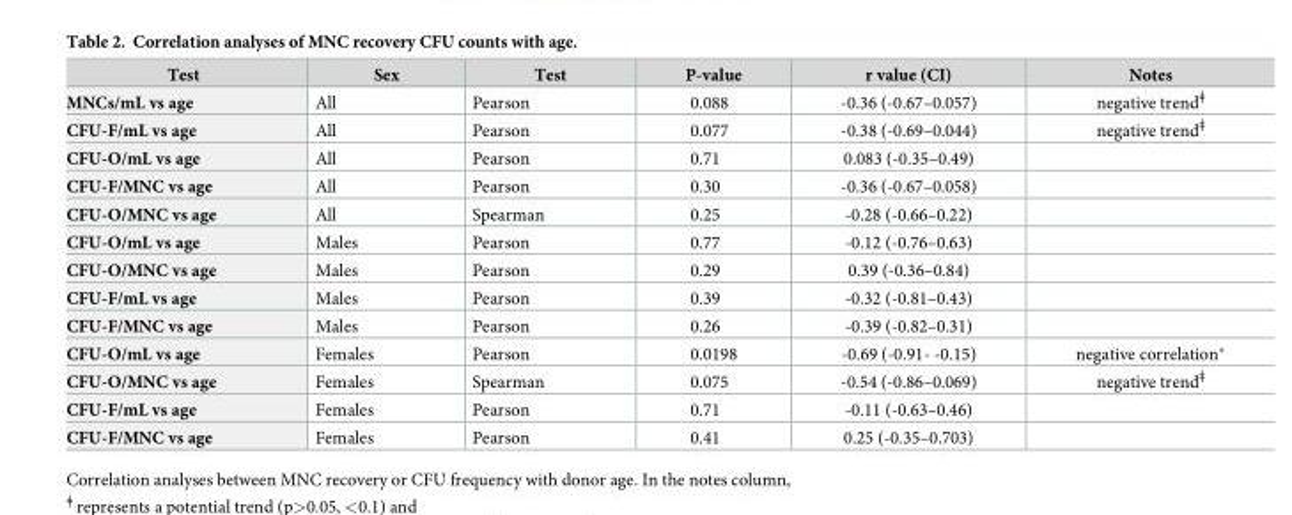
<table><thead><tr><td>Test</td><td>Sex</td><td>Test</td><td>P-value</td><td>r value (CI)</td><td>Notes</td></tr></thead><tbody><tr><td>MNCs/mL vs age</td><td>All</td><td>Pearson</td><td>0.088</td><td>-0.36 (-0.67–0.057)</td><td>negative trend<sup>ǂ</sup></td></tr><tr><td>CFU-F/mL vs age</td><td>All</td><td>Pearson</td><td>0.077</td><td>-0.38 (-0.69–0.044)</td><td>negative trend<sup>ǂ</sup></td></tr><tr><td>CFU-O/mL vs age</td><td>All</td><td>Pearson</td><td>0.71</td><td>0.083 (-0.35–0.49)</td><td></td></tr><tr><td>CFU-F/MNC vs age</td><td>All</td><td>Pearson</td><td>0.30</td><td>-0.36 (-0.67–0.058)</td><td></td></tr><tr><td>CFU-O/MNC vs age</td><td>All</td><td>Spearman</td><td>0.25</td><td>-0.28 (-0.66–0.22)</td><td></td></tr><tr><td>CFU-O/mL vs age</td><td>Males</td><td>Pearson</td><td>0.77</td><td>-0.12 (-0.76–0.63)</td><td></td></tr><tr><td>CFU-O/MNC vs age</td><td>Males</td><td>Pearson</td><td>0.29</td><td>0.39 (-0.36–0.84)</td><td></td></tr><tr><td>CFU-F/mL vs age</td><td>Males</td><td>Pearson</td><td>0.39</td><td>-0.32 (-0.81–0.43)</td><td></td></tr><tr><td>CFU-F/MNC vs age</td><td>Males</td><td>Pearson</td><td>0.26</td><td>-0.39 (-0.82–0.31)</td><td></td></tr><tr><td>CFU-O/mL vs age</td><td>Females</td><td>Pearson</td><td>0.0198</td><td>-0.69 (-0.91- -0.15)</td><td>negative correlation*</td></tr><tr><td>CFU-O/MNC vs age</td><td>Females</td><td>Spearman</td><td>0.075</td><td>-0.54 (-0.86–0.069)</td><td>negative trend<sup>ǂ</sup></td></tr><tr><td>CFU-F/mL vs age</td><td>Females</td><td>Pearson</td><td>0.71</td><td>-0.11 (-0.63–0.46)</td><td></td></tr><tr><td>CFU-F/MNC vs age</td><td>Females</td><td>Pearson</td><td>0.41</td><td>0.25 (-0.35–0.703)</td><td></td></tr></tbody></table>